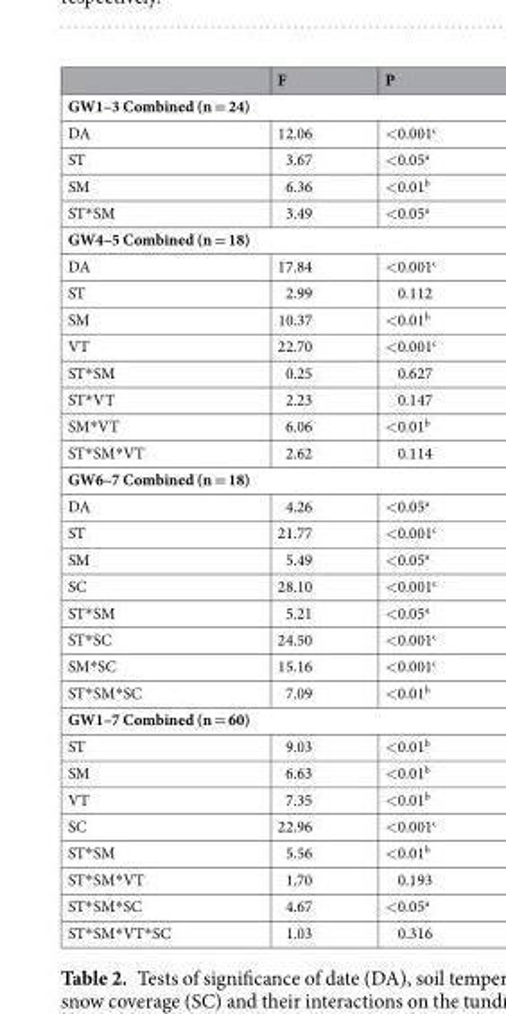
<table><thead><tr><td></td><td>F</td><td>P</td></tr></thead><tbody><tr><td colspan="3">GW1–3 Combined (n = 24)</td></tr><tr><td>DA</td><td>12.06</td><td>&lt;0.001<sup>c</sup></td></tr><tr><td>ST</td><td>3.67</td><td>&lt;0.05<sup>a</sup></td></tr><tr><td>SM</td><td>6.36</td><td>&lt;0.01<sup>b</sup></td></tr><tr><td>ST*SM</td><td>3.49</td><td>&lt;0.05<sup>a</sup></td></tr><tr><td colspan="3">GW4–5 Combined (n = 18)</td></tr><tr><td>DA</td><td>17.84</td><td>&lt;0.001<sup>c</sup></td></tr><tr><td>ST</td><td>2.99</td><td>0.112</td></tr><tr><td>SM</td><td>10.37</td><td>&lt;0.01<sup>b</sup></td></tr><tr><td>VT</td><td>22.70</td><td>&lt;0.001<sup>c</sup></td></tr><tr><td>ST*SM</td><td>0.25</td><td>0.627</td></tr><tr><td>ST*VT</td><td>2.23</td><td>0.147</td></tr><tr><td>SM*VT</td><td>6.06</td><td>&lt;0.01<sup>b</sup></td></tr><tr><td>ST*SM*VT</td><td>2.62</td><td>0.114</td></tr><tr><td colspan="3">GW6–7 Combined (n = 18)</td></tr><tr><td>DA</td><td>4.26</td><td>&lt;0.05<sup>a</sup></td></tr><tr><td>ST</td><td>21.77</td><td>&lt;0.001<sup>c</sup></td></tr><tr><td>SM</td><td>5.49</td><td>&lt;0.05<sup>a</sup></td></tr><tr><td>SC</td><td>28.10</td><td>&lt;0.001<sup>c</sup></td></tr><tr><td>ST*SM</td><td>5.21</td><td>&lt;0.05<sup>a</sup></td></tr><tr><td>ST*SC</td><td>24.50</td><td>&lt;0.001<sup>c</sup></td></tr><tr><td>SM*SC</td><td>15.16</td><td>&lt;0.001<sup>c</sup></td></tr><tr><td>ST*SM*SC</td><td>7.09</td><td>&lt;0.01<sup>b</sup></td></tr><tr><td colspan="3">GW1–7 Combined (n = 60)</td></tr><tr><td>ST</td><td>9.03</td><td>&lt;0.01<sup>b</sup></td></tr><tr><td>SM</td><td>6.63</td><td>&lt;0.01<sup>b</sup></td></tr><tr><td>VT</td><td>7.35</td><td>&lt;0.01<sup>b</sup></td></tr><tr><td>SC</td><td>22.96</td><td>&lt;0.001<sup>c</sup></td></tr><tr><td>ST*SM</td><td>5.56</td><td>&lt;0.01<sup>b</sup></td></tr><tr><td>ST*SM*VT</td><td>1.70</td><td>0.193</td></tr><tr><td>ST*SM*SC</td><td>4.67</td><td>&lt;0.05<sup>a</sup></td></tr><tr><td>ST*SM*VT*SC</td><td>1.03</td><td>0.316</td></tr></tbody></table>